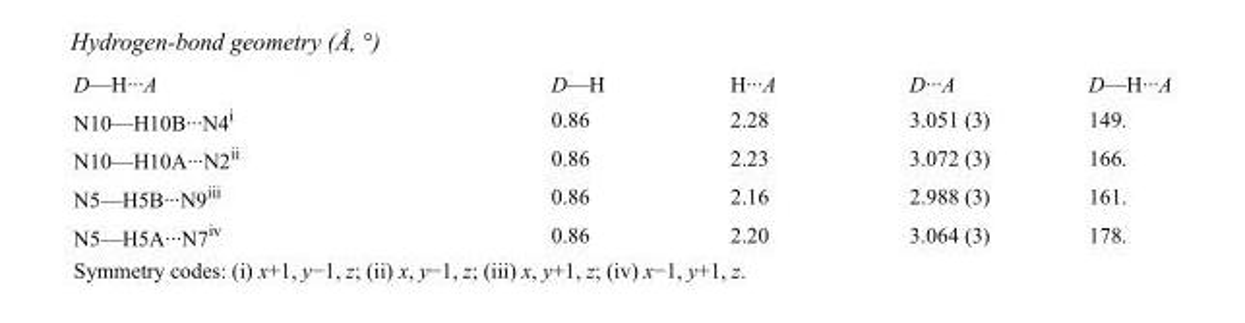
<table><tbody><tr><td>D—H···A</td><td>D—H</td><td>H···A</td><td>D···A</td><td>D—H···A</td></tr><tr><td>N10—H10B···N4<sup>i</sup></td><td>0.86</td><td>2.28</td><td>3.051 (3)</td><td>149.</td></tr><tr><td>N10—H10A···N2<sup>ii</sup></td><td>0.86</td><td>2.23</td><td>3.072 (3)</td><td>166.</td></tr><tr><td>N5—H5B···N9<sup>iii</sup></td><td>0.86</td><td>2.16</td><td>2.988 (3)</td><td>161.</td></tr><tr><td>N5—H5A···N7<sup>iv</sup></td><td>0.86</td><td>2.20</td><td>3.064 (3)</td><td>178.</td></tr></tbody></table>